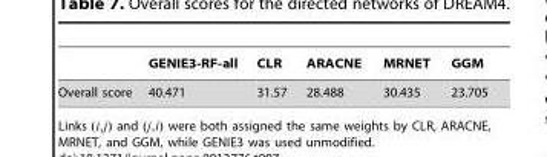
<table><thead><tr><td></td><td>GENIE3-RF-all</td><td>CLR</td><td>ARACNE</td><td>MRNET</td><td>GGM</td></tr></thead><tbody><tr><td>Overall score</td><td>40.471</td><td>31.57</td><td>28.488</td><td>30.435</td><td>23.705</td></tr></tbody></table>